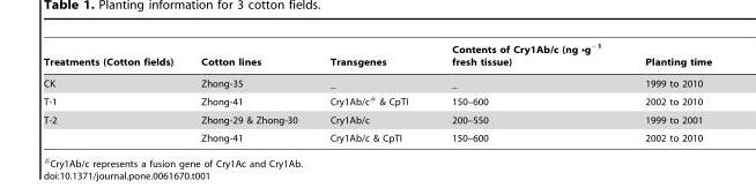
<table><thead><tr><td>Treatments (Cotton fields)</td><td>Cotton lines</td><td>Transgenes</td><td>Contents of Cry1Ab/c (ng •g<sup>−1</sup> fresh tissue)</td><td>Planting time</td></tr></thead><tbody><tr><td>CK</td><td>Zhong-35</td><td>_</td><td>_</td><td>1999 to 2010</td></tr><tr><td>T-1</td><td>Zhong-41</td><td>Cry1Ab/c# &amp; CpTI</td><td>150–600</td><td>2002 to 2010</td></tr><tr><td rowspan="2">T-2</td><td>Zhong-29 &amp; Zhong-30</td><td>Cry1Ab/c</td><td>200–550</td><td>1999 to 2001</td></tr><tr><td>Zhong-41</td><td>Cry1Ab/c &amp; CpTI</td><td>150–600</td><td>2002 to 2010</td></tr></tbody></table>